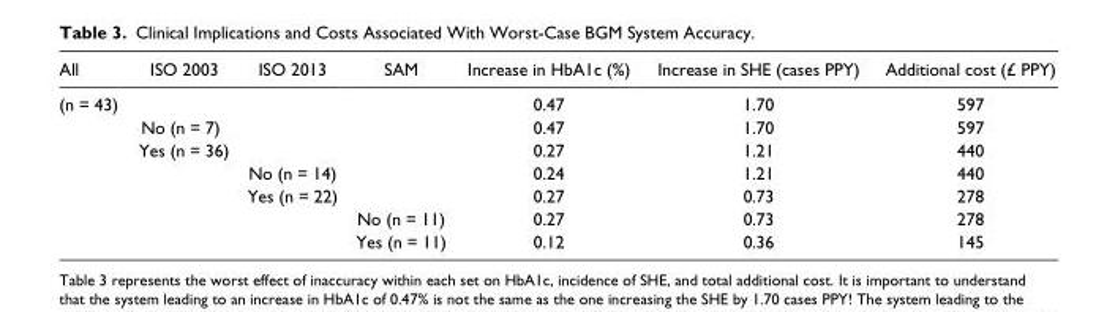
<table><thead><tr><td>All</td><td>ISO 2003</td><td>ISO 2013</td><td>SAM</td><td>Increase in HbA1c (%)</td><td>Increase in SHE (cases PPY)</td><td>Additional cost (£ PPY)</td></tr></thead><tbody><tr><td rowspan="7">(n = 43)</td><td></td><td></td><td></td><td>0.47</td><td>1.70</td><td>597</td></tr><tr><td>No (n = 7)</td><td></td><td></td><td>0.47</td><td>1.70</td><td>597</td></tr><tr><td>Yes (n = 36)</td><td></td><td></td><td>0.27</td><td>1.21</td><td>440</td></tr><tr><td></td><td>No (n = 14)</td><td></td><td>0.24</td><td>1.21</td><td>440</td></tr><tr><td></td><td>Yes (n = 22)</td><td></td><td>0.27</td><td>0.73</td><td>278</td></tr><tr><td></td><td></td><td>No (n = 11)</td><td>0.27</td><td>0.73</td><td>278</td></tr><tr><td></td><td></td><td>Yes (n = 11)</td><td>0.12</td><td>0.36</td><td>145</td></tr></tbody></table>